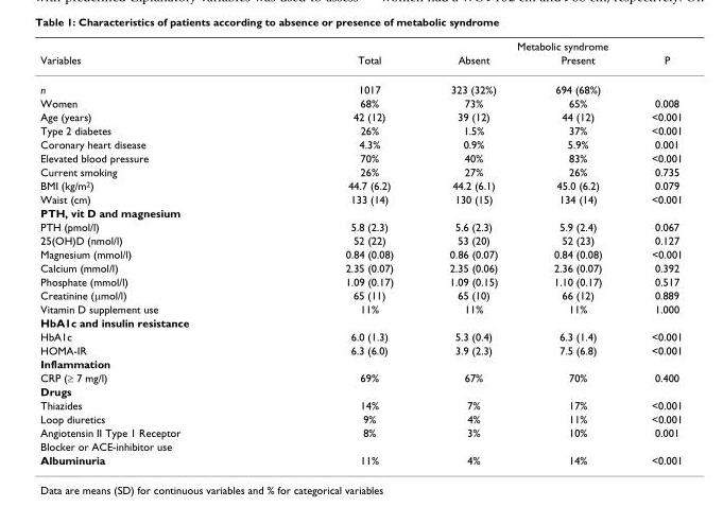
<table><thead><tr><td rowspan="2">Variables</td><td rowspan="2">Total</td><td colspan="3">Metabolic syndrome</td></tr><tr><td>Absent</td><td>Present</td><td>P</td></tr></thead><tbody><tr><td>n</td><td>1017</td><td>323 (32%)</td><td>694 (68%)</td><td></td></tr><tr><td>Women</td><td>68%</td><td>73%</td><td>65%</td><td>0.008</td></tr><tr><td>Age (years)</td><td>42 (12)</td><td>39 (12)</td><td>44 (12)</td><td>&lt;0.001</td></tr><tr><td>Type 2 diabetes</td><td>26%</td><td>1.5%</td><td>37%</td><td>&lt;0.001</td></tr><tr><td>Coronary heart disease</td><td>4.3%</td><td>0.9%</td><td>5.9%</td><td>0.001</td></tr><tr><td>Elevated blood pressure</td><td>70%</td><td>40%</td><td>83%</td><td>&lt;0.001</td></tr><tr><td>Current smoking</td><td>26%</td><td>27%</td><td>26%</td><td>0.735</td></tr><tr><td>BMI (kg/m<sup>2</sup>)</td><td>44.7 (6.2)</td><td>44.2 (6.1)</td><td>45.0 (6.2)</td><td>0.079</td></tr><tr><td>Waist (cm)</td><td>133 (14)</td><td>130 (15)</td><td>134 (14)</td><td>&lt;0.001</td></tr><tr><td colspan="5">PTH, vit D and magnesium</td></tr><tr><td>PTH (pmol/l)</td><td>5.8 (2.3)</td><td>5.6 (2.3)</td><td>5.9 (2.4)</td><td>0.067</td></tr><tr><td>25(OH)D (nmol/l)</td><td>52 (22)</td><td>53 (20)</td><td>52 (23)</td><td>0.127</td></tr><tr><td>Magnesium (mmol/l)</td><td>0.84 (0.08)</td><td>0.86 (0.07)</td><td>0.84 (0.08)</td><td>&lt;0.001</td></tr><tr><td>Calcium (mmol/l)</td><td>2.35 (0.07)</td><td>2.35 (0.06)</td><td>2.36 (0.07)</td><td>0.392</td></tr><tr><td>Phosphate (mmol/l)</td><td>1.09 (0.17)</td><td>1.09 (0.15)</td><td>1.10 (0.17)</td><td>0.517</td></tr><tr><td>Creatinine (μmol/l)</td><td>65 (11)</td><td>65 (10)</td><td>66 (12)</td><td>0.889</td></tr><tr><td>Vitamin D supplement use</td><td>11%</td><td>11%</td><td>11%</td><td>1.000</td></tr><tr><td colspan="5">HbA1c and insulin resistance</td></tr><tr><td>HbA1c</td><td>6.0 (1.3)</td><td>5.3 (0.4)</td><td>6.3 (1.4)</td><td>&lt;0.001</td></tr><tr><td>HOMA-IR</td><td>6.3 (6.0)</td><td>3.9 (2.3)</td><td>7.5 (6.8)</td><td>&lt;0.001</td></tr><tr><td colspan="5">Inflammation</td></tr><tr><td>CRP (≥ 7 mg/l)</td><td>69%</td><td>67%</td><td>70%</td><td>0.400</td></tr><tr><td colspan="5">Drugs</td></tr><tr><td>Thiazides</td><td>14%</td><td>7%</td><td>17%</td><td>&lt;0.001</td></tr><tr><td>Loop diuretics</td><td>9%</td><td>4%</td><td>11%</td><td>&lt;0.001</td></tr><tr><td>Angiotensin II Type 1 Receptor</td><td>8%</td><td>3%</td><td>10%</td><td>0.001</td></tr><tr><td colspan="5">Blocker or ACE-inhibitor use</td></tr><tr><td>Albuminuria</td><td>11%</td><td>4%</td><td>14%</td><td>&lt;0.001</td></tr></tbody></table>